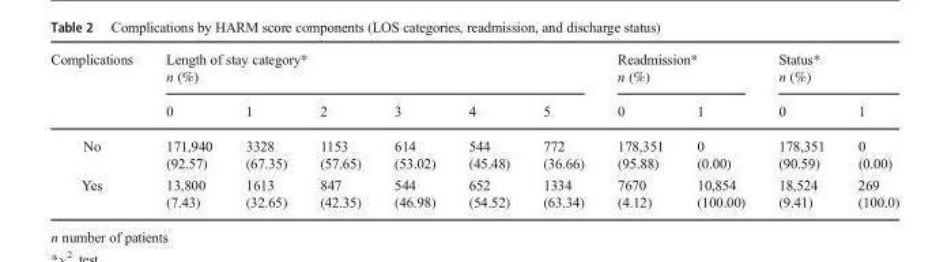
<table><thead><tr><td rowspan="2">Complications</td><td colspan="6">Length of stay category* n (%)</td><td colspan="2">Readmission* n (%)</td><td colspan="2">Status* n (%)</td></tr><tr><td>0</td><td>1</td><td>2</td><td>3</td><td>4</td><td>5</td><td>0</td><td>1</td><td>0</td><td>1</td></tr></thead><tbody><tr><td>No</td><td>171,940 (92.57)</td><td>3328 (67.35)</td><td>1153 (57.65)</td><td>614 (53.02)</td><td>544 (45.48)</td><td>772 (36.66)</td><td>178,351 (95.88)</td><td>0 (0.00)</td><td>178,351 (90.59)</td><td>0 (0.00)</td></tr><tr><td>Yes</td><td>13,800 (7.43)</td><td>1613 (32.65)</td><td>847 (42.35)</td><td>544 (46.98)</td><td>652 (54.52)</td><td>1334 (63.34)</td><td>7670 (4.12)</td><td>10,854 (100.00)</td><td>18,524 (9.41)</td><td>269 (100.0)</td></tr></tbody></table>